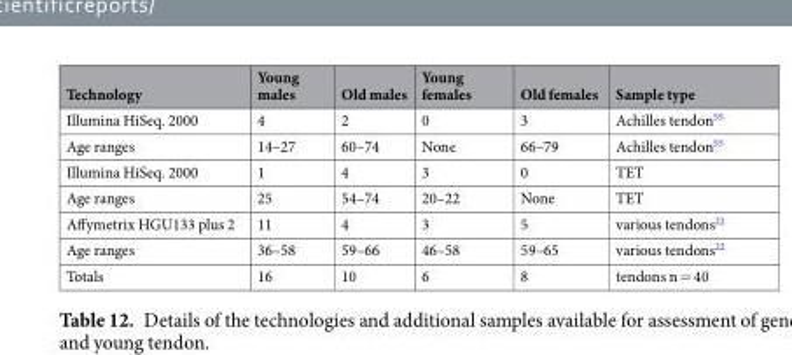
<table><thead><tr><td>Technology</td><td>Young males</td><td>Old males</td><td>Young females</td><td>Old females</td><td>Sample type</td></tr></thead><tbody><tr><td>Illumina HiSeq. 2000</td><td>4</td><td>2</td><td>0</td><td>3</td><td>Achilles tendon<sup>55</sup></td></tr><tr><td>Age ranges</td><td>14–27</td><td>60–74</td><td>None</td><td>66–79</td><td>Achilles tendon<sup>55</sup></td></tr><tr><td>Illumina HiSeq. 2000</td><td>1</td><td>4</td><td>3</td><td>0</td><td>TET</td></tr><tr><td>Age ranges</td><td>25</td><td>54–74</td><td>20–22</td><td>None</td><td>TET</td></tr><tr><td>Affymetrix HGU133 plus 2</td><td>11</td><td>4</td><td>3</td><td>5</td><td>various tendons<sup>22</sup></td></tr><tr><td>Age ranges</td><td>36–58</td><td>59–66</td><td>46–58</td><td>59–65</td><td>various tendons<sup>22</sup></td></tr><tr><td>Totals</td><td>16</td><td>10</td><td>6</td><td>8</td><td>tendons n = 40</td></tr></tbody></table>